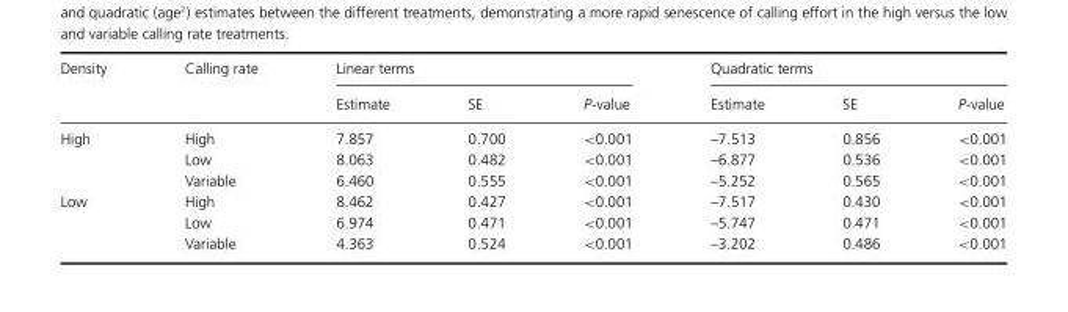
<table><thead><tr><td rowspan="2">Density</td><td rowspan="2">Calling rate</td><td colspan="3">Linear terms</td><td colspan="3">Quadratic terms</td></tr><tr><td>Estimate</td><td>SE</td><td>P-value</td><td>Estimate</td><td>SE</td><td>P-value</td></tr></thead><tbody><tr><td rowspan="3">High</td><td>High</td><td>7.857</td><td>0.700</td><td>&lt;0.001</td><td>–7.513</td><td>0.856</td><td>&lt;0.001</td></tr><tr><td>Low</td><td>8.063</td><td>0.482</td><td>&lt;0.001</td><td>–6.877</td><td>0.536</td><td>&lt;0.001</td></tr><tr><td>Variable</td><td>6.460</td><td>0.555</td><td>&lt;0.001</td><td>–5.252</td><td>0.565</td><td>&lt;0.001</td></tr><tr><td rowspan="3">Low</td><td>High</td><td>8.462</td><td>0.427</td><td>&lt;0.001</td><td>–7.517</td><td>0.430</td><td>&lt;0.001</td></tr><tr><td>Low</td><td>6.974</td><td>0.471</td><td>&lt;0.001</td><td>–5.747</td><td>0.471</td><td>&lt;0.001</td></tr><tr><td>Variable</td><td>4.363</td><td>0.524</td><td>&lt;0.001</td><td>–3.202</td><td>0.486</td><td>&lt;0.001</td></tr></tbody></table>